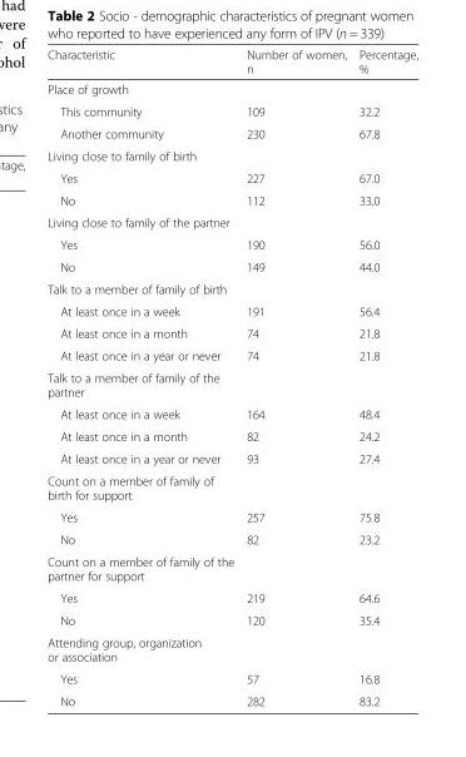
<table><thead><tr><td>Characteristic</td><td>Number of women, n</td><td>Percentage, %</td></tr></thead><tbody><tr><td colspan="3">Place of growth</td></tr><tr><td>This community</td><td>109</td><td>32.2</td></tr><tr><td>Another community</td><td>230</td><td>67.8</td></tr><tr><td colspan="3">Living close to family of birth</td></tr><tr><td>Yes</td><td>227</td><td>67.0</td></tr><tr><td>No</td><td>112</td><td>33.0</td></tr><tr><td colspan="3">Living close to family of the partner</td></tr><tr><td>Yes</td><td>190</td><td>56.0</td></tr><tr><td>No</td><td>149</td><td>44.0</td></tr><tr><td colspan="3">Talk to a member of family of birth</td></tr><tr><td>At least once in a week</td><td>191</td><td>56.4</td></tr><tr><td>At least once in a month</td><td>74</td><td>21.8</td></tr><tr><td>At least once in a year or never</td><td>74</td><td>21.8</td></tr><tr><td colspan="3">Talk to a member of family of the partner</td></tr><tr><td>At least once in a week</td><td>164</td><td>48.4</td></tr><tr><td>At least once in a month</td><td>82</td><td>24.2</td></tr><tr><td>At least once in a year or never</td><td>93</td><td>27.4</td></tr><tr><td colspan="3">Count on a member of family of birth for support</td></tr><tr><td>Yes</td><td>257</td><td>75.8</td></tr><tr><td>No</td><td>82</td><td>23.2</td></tr><tr><td colspan="3">Count on a member of family of the partner for support</td></tr><tr><td>Yes</td><td>219</td><td>64.6</td></tr><tr><td>No</td><td>120</td><td>35.4</td></tr><tr><td colspan="3">Attending group, organization or association</td></tr><tr><td>Yes</td><td>57</td><td>16.8</td></tr><tr><td>No</td><td>282</td><td>83.2</td></tr></tbody></table>